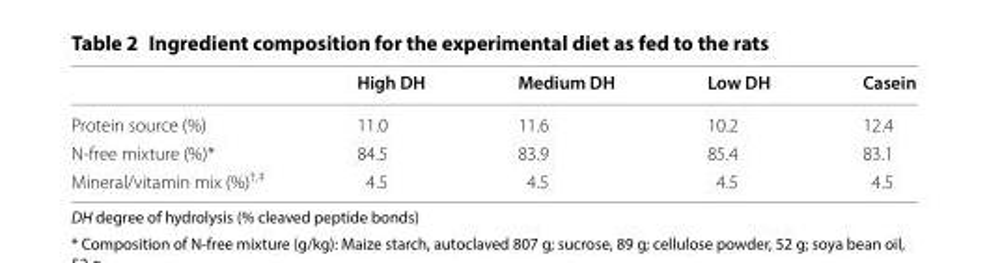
<table><thead><tr><td></td><td>High DH</td><td>Medium DH</td><td>Low DH</td><td>Casein</td></tr></thead><tbody><tr><td>Protein source (%)</td><td>11.0</td><td>11.6</td><td>10.2</td><td>12.4</td></tr><tr><td>N-free mixture (%)*</td><td>84.5</td><td>83.9</td><td>85.4</td><td>83.1</td></tr><tr><td>Mineral/vitamin mix (%)<sup>†,‡</sup></td><td>4.5</td><td>4.5</td><td>4.5</td><td>4.5</td></tr></tbody></table>